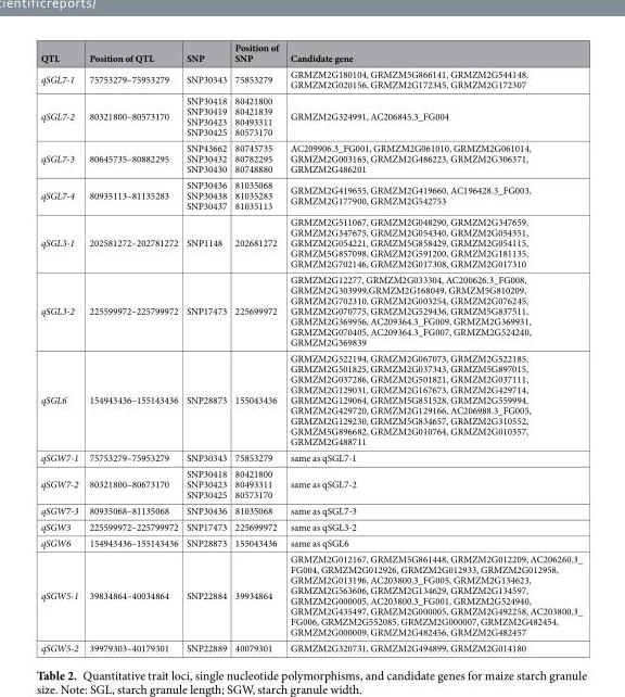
<table><thead><tr><td>QTL</td><td>Position of QTL</td><td>SNP</td><td>Position of SNP</td><td>Candidate gene</td></tr></thead><tbody><tr><td>qSGL7-1</td><td>75753279–75953279</td><td>SNP30343</td><td>75853279</td><td>GRMZM2G180104, GRMZM5G866141, GRMZM2G544148, GRMZM2G020156, GRMZM2G172345, GRMZM2G172307</td></tr><tr><td>qSGL7-2</td><td>80321800–80573170</td><td>SNP30418 SNP30419 SNP30423 SNP30425</td><td>80421800 80421839 80493311 80573170</td><td>GRMZM2G324991, AC206845.3_FG004</td></tr><tr><td>qSGL7-3</td><td>80645735–80882295</td><td>SNP43662 SNP30432 SNP30430</td><td>80745735 80782295 80748880</td><td>AC209906.3_FG001, GRMZM2G061010, GRMZM2G061014, GRMZM2G003165, GRMZM2G486223, GRMZM2G306371, GRMZM2G486201</td></tr><tr><td>qSGL7-4</td><td>80935113–81135283</td><td>SNP30436 SNP30438 SNP30437</td><td>81035068 81035283 81035113</td><td>GRMZM2G419655, GRMZM2G419660, AC196428.3_FG003, GRMZM2G177900, GRMZM2G542753</td></tr><tr><td>qSGL3-1</td><td>202581272–202781272</td><td>SNP1148</td><td>202681272</td><td>GRMZM2G511067, GRMZM2G048290, GRMZM2G347659, GRMZM2G347675, GRMZM2G054340, GRMZM2G054351, GRMZM2G054221, GRMZM5G858429, GRMZM2G054115, GRMZM5G857098, GRMZM2G591200, GRMZM2G181135, GRMZM2G702146, GRMZM2G017308, GRMZM2G017310</td></tr><tr><td>qSGL3-2</td><td>225599972–225799972</td><td>SNP17473</td><td>225699972</td><td>GRMZM2G12277, GRMZM2G033304, AC200626.3_FG008, GRMZM2G303999,GRMZM2G168049, GRMZM5G810209, GRMZM2G702310, GRMZM2G003254, GRMZM2G076245, GRMZM2G070775, GRMZM2G529436, GRMZM5G837511, GRMZM2G369956, AC209364.3_FG009, GRMZM2G369931, GRMZM2G070405, AC209364.3_FG007, GRMZM2G524240, GRMZM2G369839</td></tr><tr><td>qSGL6</td><td>154943436–155143436</td><td>SNP28873</td><td>155043436</td><td>GRMZM2G522194, GRMZM2G067073, GRMZM2G522185, GRMZM2G501825, GRMZM2G037343, GRMZM5G897015, GRMZM2G037286, GRMZM2G501821, GRMZM2G037111, GRMZM2G129031, GRMZM2G167673, GRMZM2G429714, GRMZM2G129064, GRMZM5G851528, GRMZM2G559994, GRMZM2G429720, GRMZM2G129166, AC206988.3_FG005, GRMZM2G129230, GRMZM5G834657, GRMZM2G310552, GRMZM5G896682, GRMZM2G010764, GRMZM2G010357, GRMZM2G488711</td></tr><tr><td>qSGW7-1</td><td>75753279–75953279</td><td>SNP30343</td><td>75853279</td><td>same as qSGL7-1</td></tr><tr><td>qSGW7-2</td><td>80321800–80673170</td><td>SNP30418 SNP30423 SNP30425</td><td>80421800 80493311 80573170</td><td>same as qSGL7-2</td></tr><tr><td>qSGW7-3</td><td>80935068–81135068</td><td>SNP30436</td><td>81035068</td><td>same as qSGL7-3</td></tr><tr><td>qSGW3</td><td>225599972–225799972</td><td>SNP17473</td><td>225699972</td><td>same as qSGL3-2</td></tr><tr><td>qSGW6</td><td>154943436–155143436</td><td>SNP28873</td><td>155043436</td><td>same as qSGL6</td></tr><tr><td>qSGW5-1</td><td>39834864–40034864</td><td>SNP22884</td><td>39934864</td><td>GRMZM2G012167, GRMZM5G861448, GRMZM2G012209, AC206260.3_ FG004, GRMZM2G012926, GRMZM2G012933, GRMZM2G012958, GRMZM2G013196, AC203800.3_FG005, GRMZM2G134623, GRMZM2G563606, GRMZM2G134629, GRMZM2G134597, GRMZM2G000005, AC203800.3_FG001, GRMZM2G524940, GRMZM2G435497, GRMZM2G000005, GRMZM2G492258, AC203800.3_ FG006, GRMZM2G552085, GRMZM2G000007, GRMZM2G482454, GRMZM2G000009, GRMZM2G482456, GRMZM2G482457</td></tr><tr><td>qSGW5-2</td><td>39979303–40179301</td><td>SNP22889</td><td>40079301</td><td>GRMZM2G320731, GRMZM2G494899, GRMZM2G014180</td></tr></tbody></table>